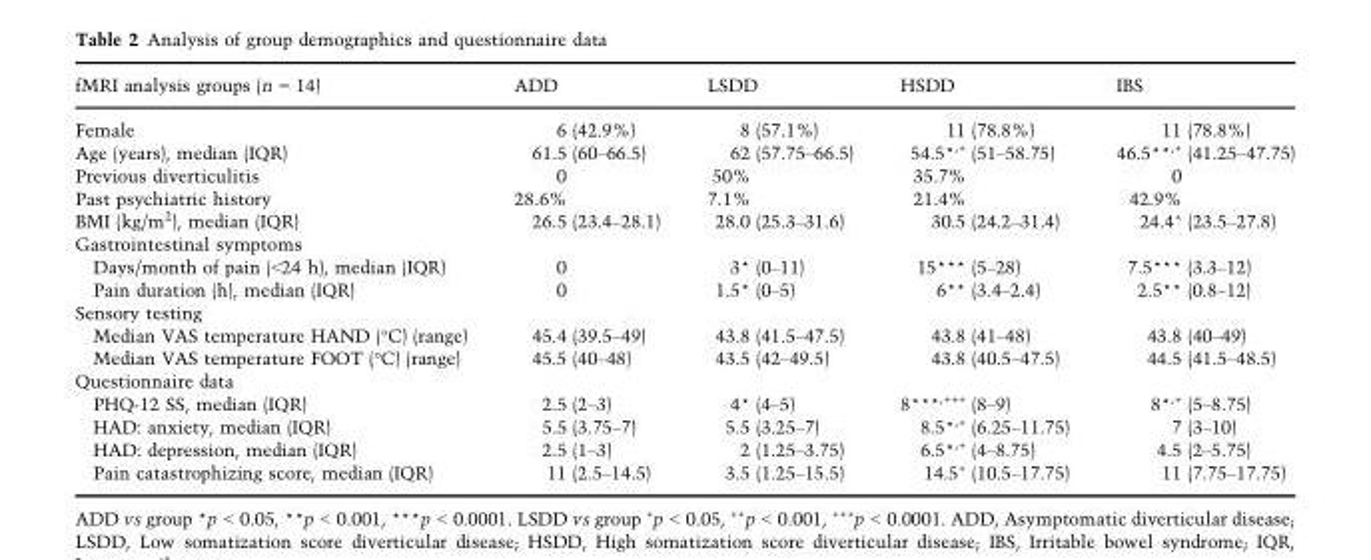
<table><thead><tr><td>fMRI analysis groups (n = 14)</td><td>ADD</td><td>LSDD</td><td>HSDD</td><td>IBS</td></tr></thead><tbody><tr><td>Female</td><td>6 (42.9%)</td><td>8 (57.1%)</td><td>11 (78.8%)</td><td>11 (78.8%)</td></tr><tr><td>Age (years), median (IQR)</td><td>61.5 (60–66.5)</td><td>62 (57.75–66.5)</td><td>54.5*<sup>,+</sup> (51–58.75)</td><td>46.5**<sup>,+</sup> (41.25–47.75)</td></tr><tr><td>Previous diverticulitis</td><td>0</td><td>50%</td><td>35.7%</td><td>0</td></tr><tr><td>Past psychiatric history</td><td>28.6%</td><td>7.1%</td><td>21.4%</td><td>42.9%</td></tr><tr><td>BMI (kg/m<sup>2</sup>), median (IQR)</td><td>26.5 (23.4–28.1)</td><td>28.0 (25.3–31.6)</td><td>30.5 (24.2–31.4)</td><td>24.4<sup>+</sup> (23.5–27.8)</td></tr><tr><td colspan="5">Gastrointestinal symptoms</td></tr><tr><td>Days/month of pain (&lt;24 h), median (IQR)</td><td>0</td><td>3* (0–11)</td><td>15*** (5–28)</td><td>7.5*** (3.3–12)</td></tr><tr><td>Pain duration (h), median (IQR)</td><td>0</td><td>1.5* (0–5)</td><td>6** (3.4–2.4)</td><td>2.5** (0.8–12)</td></tr><tr><td colspan="5">Sensory testing</td></tr><tr><td>Median VAS temperature HAND (°C) (range)</td><td>45.4 (39.5–49)</td><td>43.8 (41.5–47.5)</td><td>43.8 (41–48)</td><td>43.8 (40–49)</td></tr><tr><td>Median VAS temperature FOOT (°C) (range)</td><td>45.5 (40–48)</td><td>43.5 (42–49.5)</td><td>43.8 (40.5–47.5)</td><td>44.5 (41.5–48.5)</td></tr><tr><td colspan="5">Questionnaire data</td></tr><tr><td>PHQ-12 SS, median (IQR)</td><td>2.5 (2–3)</td><td>4* (4–5)</td><td>8***<sup>,+++</sup> (8–9)</td><td>8*<sup>,+</sup> (5–8.75)</td></tr><tr><td>HAD: anxiety, median (IQR)</td><td>5.5 (3.75–7)</td><td>5.5 (3.25–7)</td><td>8.5*<sup>,+</sup> (6.25–11.75)</td><td>7 (3–10)</td></tr><tr><td>HAD: depression, median (IQR)</td><td>2.5 (1–3)</td><td>2 (1.25–3.75)</td><td>6.5*<sup>,+</sup> (4–8.75)</td><td>4.5 (2–5.75)</td></tr><tr><td>Pain catastrophizing score, median (IQR)</td><td>11 (2.5–14.5)</td><td>3.5 (1.25–15.5)</td><td>14.5<sup>+</sup> (10.5–17.75)</td><td>11 (7.75–17.75)</td></tr></tbody></table>